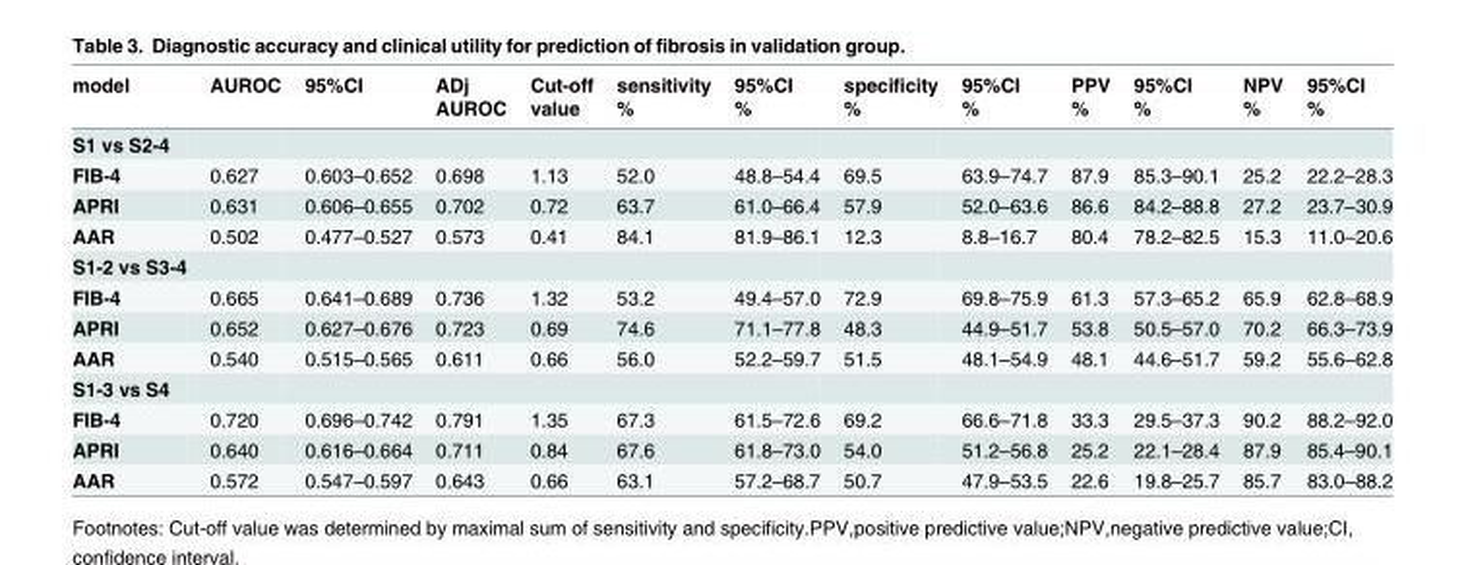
<table><thead><tr><td rowspan="2">model</td><td rowspan="2">AUROC</td><td rowspan="2">95%CI</td><td rowspan="2">ADj AUROC</td><td rowspan="2">Cut-off value</td><td rowspan="2">sensitivity %</td><td rowspan="2">95%CI %</td><td rowspan="2">specificity %</td><td rowspan="2">95%CI %</td><td rowspan="2">PPV %</td><td rowspan="2">95%CI %</td><td rowspan="2">NPV %</td><td rowspan="2">95%CI %</td></tr><tr></tr></thead><tbody><tr><td colspan="13">S1 vs S2-4</td></tr><tr><td>FIB-4</td><td>0.627</td><td>0.603–0.652</td><td>0.698</td><td>1.13</td><td>52.0</td><td>48.8–54.4</td><td>69.5</td><td>63.9–74.7</td><td>87.9</td><td>85.3–90.1</td><td>25.2</td><td>22.2–28.3</td></tr><tr><td>APRI</td><td>0.631</td><td>0.606–0.655</td><td>0.702</td><td>0.72</td><td>63.7</td><td>61.0–66.4</td><td>57.9</td><td>52.0–63.6</td><td>86.6</td><td>84.2–88.8</td><td>27.2</td><td>23.7–30.9</td></tr><tr><td>AAR</td><td>0.502</td><td>0.477–0.527</td><td>0.573</td><td>0.41</td><td>84.1</td><td>81.9–86.1</td><td>12.3</td><td>8.8–16.7</td><td>80.4</td><td>78.2–82.5</td><td>15.3</td><td>11.0–20.6</td></tr><tr><td colspan="13">S1-2 vs S3-4</td></tr><tr><td>FIB-4</td><td>0.665</td><td>0.641–0.689</td><td>0.736</td><td>1.32</td><td>53.2</td><td>49.4–57.0</td><td>72.9</td><td>69.8–75.9</td><td>61.3</td><td>57.3–65.2</td><td>65.9</td><td>62.8–68.9</td></tr><tr><td>APRI</td><td>0.652</td><td>0.627–0.676</td><td>0.723</td><td>0.69</td><td>74.6</td><td>71.1–77.8</td><td>48.3</td><td>44.9–51.7</td><td>53.8</td><td>50.5–57.0</td><td>70.2</td><td>66.3–73.9</td></tr><tr><td>AAR</td><td>0.540</td><td>0.515–0.565</td><td>0.611</td><td>0.66</td><td>56.0</td><td>52.2–59.7</td><td>51.5</td><td>48.1–54.9</td><td>48.1</td><td>44.6–51.7</td><td>59.2</td><td>55.6–62.8</td></tr><tr><td colspan="13">S1-3 vs S4</td></tr><tr><td>FIB-4</td><td>0.720</td><td>0.696–0.742</td><td>0.791</td><td>1.35</td><td>67.3</td><td>61.5–72.6</td><td>69.2</td><td>66.6–71.8</td><td>33.3</td><td>29.5–37.3</td><td>90.2</td><td>88.2–92.0</td></tr><tr><td>APRI</td><td>0.640</td><td>0.616–0.664</td><td>0.711</td><td>0.84</td><td>67.6</td><td>61.8–73.0</td><td>54.0</td><td>51.2–56.8</td><td>25.2</td><td>22.1–28.4</td><td>87.9</td><td>85.4–90.1</td></tr><tr><td>AAR</td><td>0.572</td><td>0.547–0.597</td><td>0.643</td><td>0.66</td><td>63.1</td><td>57.2–68.7</td><td>50.7</td><td>47.9–53.5</td><td>22.6</td><td>19.8–25.7</td><td>85.7</td><td>83.0–88.2</td></tr></tbody></table>